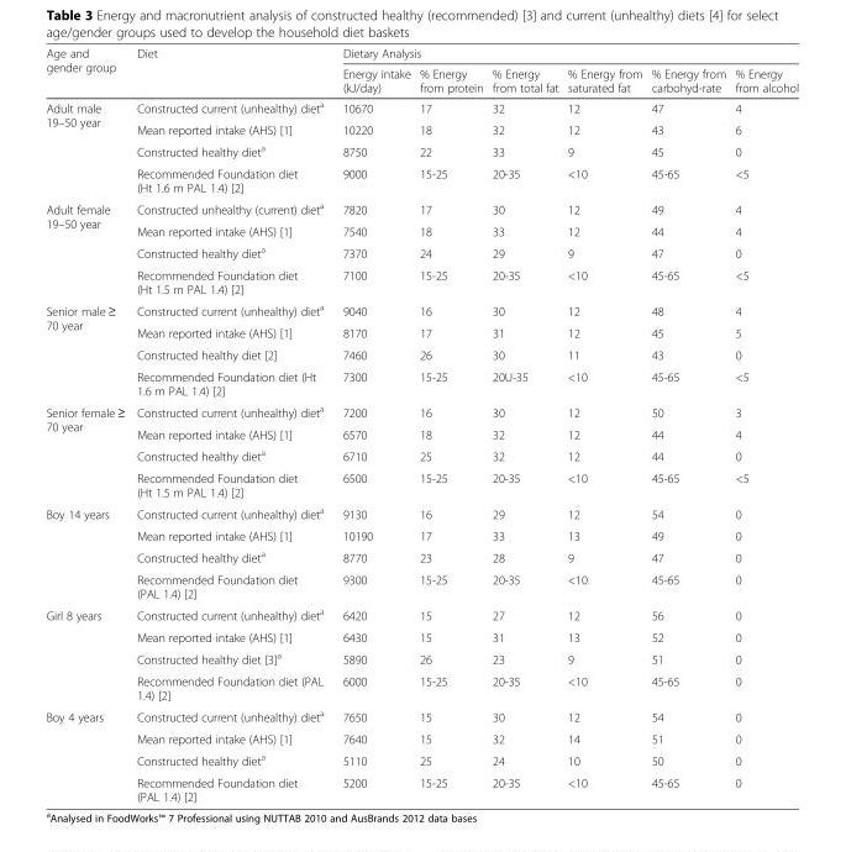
<table><thead><tr><td rowspan="2">Age and gender group</td><td rowspan="2">Diet</td><td colspan="6">Dietary Analysis</td></tr><tr><td>Energy intake (kJ/day)</td><td>% Energy from protein</td><td>% Energy from total fat</td><td>% Energy from saturated fat</td><td>% Energy from carbohyd-rate</td><td>% Energy from alcohol</td></tr></thead><tbody><tr><td rowspan="4">Adult male 19–50 year</td><td>Constructed current (unhealthy) diet<sup>a</sup></td><td>10670</td><td>17</td><td>32</td><td>12</td><td>47</td><td>4</td></tr><tr><td>Mean reported intake (AHS) [1]</td><td>10220</td><td>18</td><td>32</td><td>12</td><td>43</td><td>6</td></tr><tr><td>Constructed healthy diet<sup>a</sup></td><td>8750</td><td>22</td><td>33</td><td>9</td><td>45</td><td>0</td></tr><tr><td>Recommended Foundation diet (Ht 1.6 m PAL 1.4) [2]</td><td>9000</td><td>15-25</td><td>20-35</td><td>&lt;10</td><td>45-65</td><td>&lt;5</td></tr><tr><td rowspan="4">Adult female 19–50 year</td><td>Constructed unhealthy (current) diet<sup>a</sup></td><td>7820</td><td>17</td><td>30</td><td>12</td><td>49</td><td>4</td></tr><tr><td>Mean reported intake (AHS) [1]</td><td>7540</td><td>18</td><td>33</td><td>12</td><td>44</td><td>4</td></tr><tr><td>Constructed healthy diet<sup>a</sup></td><td>7370</td><td>24</td><td>29</td><td>9</td><td>47</td><td>0</td></tr><tr><td>Recommended Foundation diet (Ht 1.5 m PAL 1.4) [2]</td><td>7100</td><td>15-25</td><td>20-35</td><td>&lt;10</td><td>45-65</td><td>&lt;5</td></tr><tr><td rowspan="4">Senior male ≥ 70 year</td><td>Constructed current (unhealthy) diet<sup>a</sup></td><td>9040</td><td>16</td><td>30</td><td>12</td><td>48</td><td>4</td></tr><tr><td>Mean reported intake (AHS) [1]</td><td>8170</td><td>17</td><td>31</td><td>12</td><td>45</td><td>5</td></tr><tr><td>Constructed healthy diet [2]</td><td>7460</td><td>26</td><td>30</td><td>11</td><td>43</td><td>0</td></tr><tr><td>Recommended Foundation diet (Ht 1.6 m PAL 1.4) [2]</td><td>7300</td><td>15-25</td><td>20U-35</td><td>&lt;10</td><td>45-65</td><td>&lt;5</td></tr><tr><td rowspan="4">Senior female ≥ 70 year</td><td>Constructed current (unhealthy) diet<sup>a</sup></td><td>7200</td><td>16</td><td>30</td><td>12</td><td>50</td><td>3</td></tr><tr><td>Mean reported intake (AHS) [1]</td><td>6570</td><td>18</td><td>32</td><td>12</td><td>44</td><td>4</td></tr><tr><td>Constructed healthy diet<sup>a</sup></td><td>6710</td><td>25</td><td>32</td><td>12</td><td>44</td><td>0</td></tr><tr><td>Recommended Foundation diet (Ht 1.5 m PAL 1.4) [2]</td><td>6500</td><td>15-25</td><td>20-35</td><td>&lt;10</td><td>45-65</td><td>&lt;5</td></tr><tr><td rowspan="4">Boy 14 years</td><td>Constructed current (unhealthy) diet<sup>a</sup></td><td>9130</td><td>16</td><td>29</td><td>12</td><td>54</td><td>0</td></tr><tr><td>Mean reported intake (AHS) [1]</td><td>10190</td><td>17</td><td>33</td><td>13</td><td>49</td><td>0</td></tr><tr><td>Constructed healthy diet<sup>a</sup></td><td>8770</td><td>23</td><td>28</td><td>9</td><td>47</td><td>0</td></tr><tr><td>Recommended Foundation diet (PAL 1.4) [2]</td><td>9300</td><td>15-25</td><td>20-35</td><td>&lt;10</td><td>45-65</td><td>0</td></tr><tr><td rowspan="4">Girl 8 years</td><td>Constructed current (unhealthy) diet<sup>a</sup></td><td>6420</td><td>15</td><td>27</td><td>12</td><td>56</td><td>0</td></tr><tr><td>Mean reported intake (AHS) [1]</td><td>6430</td><td>15</td><td>31</td><td>13</td><td>52</td><td>0</td></tr><tr><td>Constructed healthy diet [3]<sup>a</sup></td><td>5890</td><td>26</td><td>23</td><td>9</td><td>51</td><td>0</td></tr><tr><td>Recommended Foundation diet (PAL 1.4) [2]</td><td>6000</td><td>15-25</td><td>20-35</td><td>&lt;10</td><td>45-65</td><td>0</td></tr><tr><td rowspan="4">Boy 4 years</td><td>Constructed current (unhealthy) diet<sup>a</sup></td><td>7650</td><td>15</td><td>30</td><td>12</td><td>54</td><td>0</td></tr><tr><td>Mean reported intake (AHS) [1]</td><td>7640</td><td>15</td><td>32</td><td>14</td><td>51</td><td>0</td></tr><tr><td>Constructed healthy diet<sup>a</sup></td><td>5110</td><td>25</td><td>24</td><td>10</td><td>50</td><td>0</td></tr><tr><td>Recommended Foundation diet (PAL 1.4) [2]</td><td>5200</td><td>15-25</td><td>20-35</td><td>&lt;10</td><td>45-65</td><td>0</td></tr></tbody></table>